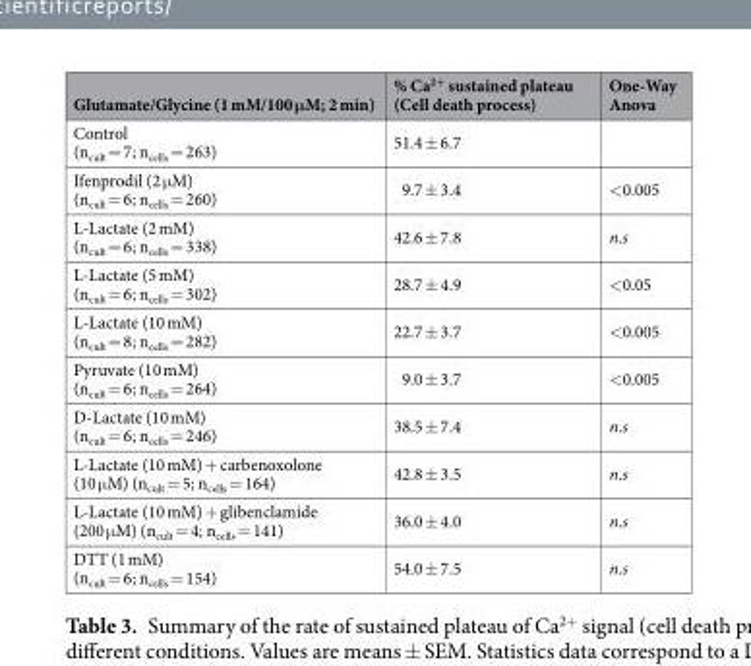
<table><thead><tr><td>Glutamate/Glycine (1 mM/100 μM; 2 min)</td><td>% Ca<sup>2+</sup> sustained plateau (Cell death process)</td><td>One-Way Anova</td></tr></thead><tbody><tr><td>Control (n<sub>cult</sub> = 7; n<sub>cells</sub> = 263)</td><td>51.4 ± 6.7</td><td></td></tr><tr><td>Ifenprodil (2 μM) (n<sub>cult</sub> = 6; n<sub>cells</sub> = 260)</td><td>9.7 ± 3.4</td><td>&lt;0.005</td></tr><tr><td>L-Lactate (2 mM) (n<sub>cult</sub> = 6; n<sub>cells</sub> = 338)</td><td>42.6 ± 7.8</td><td>n.s</td></tr><tr><td>L-Lactate (5 mM) (n<sub>cult</sub> = 6; n<sub>cells</sub> = 302)</td><td>28.7 ± 4.9</td><td>&lt;0.05</td></tr><tr><td>L-Lactate (10 mM) (n<sub>cult</sub> = 8; n<sub>cells</sub> = 282)</td><td>22.7 ± 3.7</td><td>&lt;0.005</td></tr><tr><td>Pyruvate (10 mM) (n<sub>cult</sub> = 6; n<sub>cells</sub> = 264)</td><td>9.0 ± 3.7</td><td>&lt;0.005</td></tr><tr><td>D-Lactate (10 mM) (n<sub>cult</sub> = 6; n<sub>cells</sub> = 246)</td><td>38.5 ± 7.4</td><td>n.s</td></tr><tr><td>L-Lactate (10 mM) + carbenoxolone (10 μM) (n<sub>cult</sub> = 5; n<sub>cells</sub> = 164)</td><td>42.8 ± 3.5</td><td>n.s</td></tr><tr><td>L-Lactate (10 mM) + glibenclamide (200 μM) (n<sub>cult</sub> = 4; n<sub>cells</sub> = 141)</td><td>36.0 ± 4.0</td><td>n.s</td></tr><tr><td>DTT (1 mM) (n<sub>cult</sub> = 6; n<sub>cells</sub> = 154)</td><td>54.0 ± 7.5</td><td>n.s</td></tr></tbody></table>